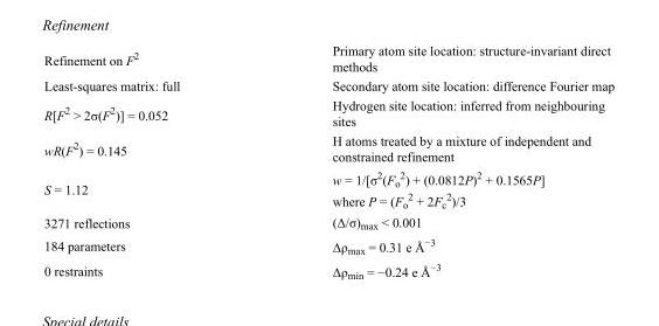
<table><tbody><tr><td>Refinement on F<sup>2</sup></td><td>Primary atom site location: structure-invariant direct methods</td></tr><tr><td>Least-squares matrix: full</td><td>Secondary atom site location: difference Fourier map</td></tr><tr><td>R[F<sup>2</sup> &gt; 2σ(F<sup>2</sup>)] = 0.052</td><td>Hydrogen site location: inferred from neighbouring sites</td></tr><tr><td>wR(F<sup>2</sup>) = 0.145</td><td>H atoms treated by a mixture of independent and constrained refinement</td></tr><tr><td>S = 1.12</td><td>w = 1/[σ<sup>2</sup>(F<sub>o</sub> <sup>2</sup>) + (0.0812P)<sup>2</sup> + 0.1565P] where P = (F<sub>o</sub> <sup>2</sup> + 2F<sub>c</sub> <sup>2</sup>)/3</td></tr><tr><td>3271 reflections</td><td>(Δ/σ)<sub>max</sub> &lt; 0.001</td></tr><tr><td>184 parameters</td><td>Δρ<sub>max</sub> = 0.31 e Å<sup>−3</sup></td></tr><tr><td>0 restraints</td><td>Δρ<sub>min</sub> = −0.24 e Å<sup>−3</sup></td></tr></tbody></table>